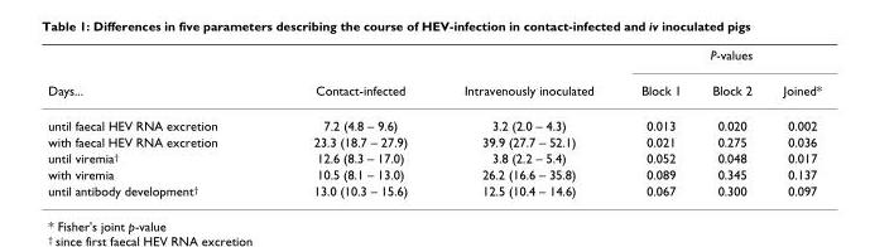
<table><thead><tr><td rowspan="2">Days...</td><td rowspan="2">Contact-infected</td><td rowspan="2">Intravenously inoculated</td><td colspan="3">P-values</td></tr><tr><td>Block 1</td><td>Block 2</td><td>Joined*</td></tr></thead><tbody><tr><td>until faecal HEV RNA excretion</td><td>7.2 (4.8 – 9.6)</td><td>3.2 (2.0 – 4.3)</td><td>0.013</td><td>0.020</td><td>0.002</td></tr><tr><td>with faecal HEV RNA excretion</td><td>23.3 (18.7 – 27.9)</td><td>39.9 (27.7 – 52.1)</td><td>0.021</td><td>0.275</td><td>0.036</td></tr><tr><td>until viremia<sup>†</sup></td><td>12.6 (8.3 – 17.0)</td><td>3.8 (2.2 – 5.4)</td><td>0.052</td><td>0.048</td><td>0.017</td></tr><tr><td>with viremia</td><td>10.5 (8.1 – 13.0)</td><td>26.2 (16.6 – 35.8)</td><td>0.089</td><td>0.345</td><td>0.137</td></tr><tr><td>until antibody development<sup>†</sup></td><td>13.0 (10.3 – 15.6)</td><td>12.5 (10.4 – 14.6)</td><td>0.067</td><td>0.300</td><td>0.097</td></tr></tbody></table>